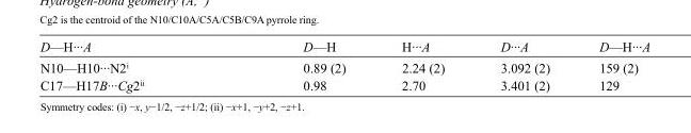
<table><tbody><tr><td>D—H···A</td><td>D—H</td><td>H···A</td><td>D···A</td><td>D—H···A</td></tr><tr><td>N10—H10···N2<sup>i</sup></td><td>0.89 (2)</td><td>2.24 (2)</td><td>3.092 (2)</td><td>159 (2)</td></tr><tr><td>C17—H17B···Cg2<sup>ii</sup></td><td>0.98</td><td>2.70</td><td>3.401 (2)</td><td>129</td></tr></tbody></table>